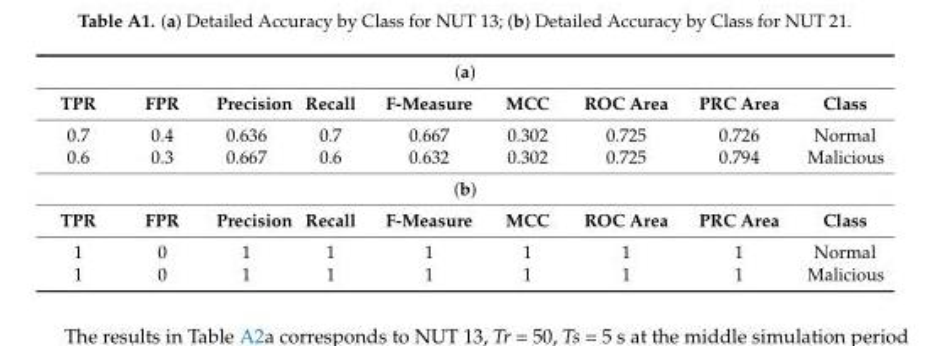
<table><tbody><tr><td colspan="9">(a)</td></tr><tr><td>TPR</td><td>FPR</td><td>Precision</td><td>Recall</td><td>F-Measure</td><td>MCC</td><td>ROC Area</td><td>PRC Area</td><td>Class</td></tr><tr><td>0.7</td><td>0.4</td><td>0.636</td><td>0.7</td><td>0.667</td><td>0.302</td><td>0.725</td><td>0.726</td><td>Normal</td></tr><tr><td>0.6</td><td>0.3</td><td>0.667</td><td>0.6</td><td>0.632</td><td>0.302</td><td>0.725</td><td>0.794</td><td>Malicious</td></tr><tr><td colspan="9">(b)</td></tr><tr><td>TPR</td><td>FPR</td><td>Precision</td><td>Recall</td><td>F-Measure</td><td>MCC</td><td>ROC Area</td><td>PRC Area</td><td>Class</td></tr><tr><td>1</td><td>0</td><td>1</td><td>1</td><td>1</td><td>1</td><td>1</td><td>1</td><td>Normal</td></tr><tr><td>1</td><td>0</td><td>1</td><td>1</td><td>1</td><td>1</td><td>1</td><td>1</td><td>Malicious</td></tr></tbody></table>